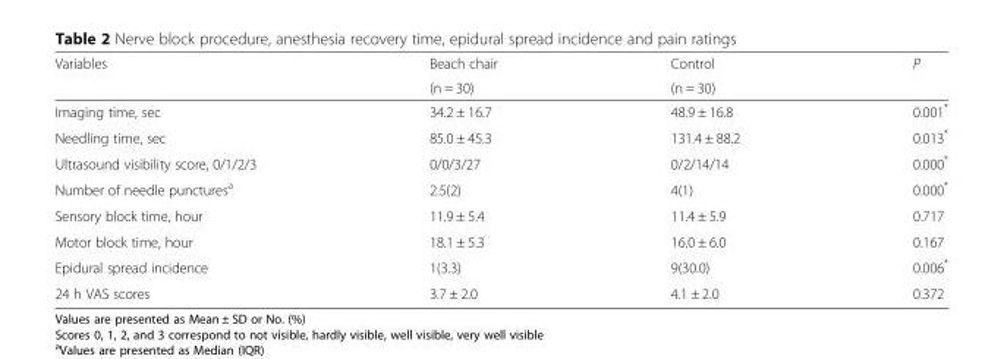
<table><thead><tr><td rowspan="2">Variables</td><td rowspan="2">Beach chair (n = 30)</td><td rowspan="2">Control (n = 30)</td><td rowspan="2">P</td></tr><tr></tr></thead><tbody><tr><td>Imaging time, sec</td><td>34.2 ± 16.7</td><td>48.9 ± 16.8</td><td>0.001*</td></tr><tr><td>Needling time, sec</td><td>85.0 ± 45.3</td><td>131.4 ± 88.2</td><td>0.013*</td></tr><tr><td>Ultrasound visibility score, 0/1/2/3</td><td>0/0/3/27</td><td>0/2/14/14</td><td>0.000*</td></tr><tr><td>Number of needle punctures<sup>a</sup></td><td>2.5(2)</td><td>4(1)</td><td>0.000*</td></tr><tr><td>Sensory block time, hour</td><td>11.9 ± 5.4</td><td>11.4 ± 5.9</td><td>0.717</td></tr><tr><td>Motor block time, hour</td><td>18.1 ± 5.3</td><td>16.0 ± 6.0</td><td>0.167</td></tr><tr><td>Epidural spread incidence</td><td>1(3.3)</td><td>9(30.0)</td><td>0.006*</td></tr><tr><td>24 h VAS scores</td><td>3.7 ± 2.0</td><td>4.1 ± 2.0</td><td>0.372</td></tr></tbody></table>